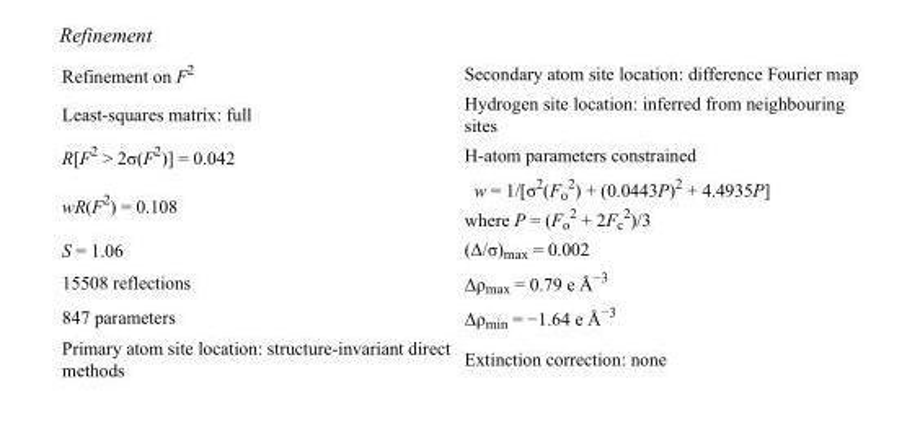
<table><tbody><tr><td>Refinement on F<sup>2</sup></td><td>Secondary atom site location: difference Fourier map</td></tr><tr><td>Least-squares matrix: full</td><td>Hydrogen site location: inferred from neighbouring sites</td></tr><tr><td>R[F<sup>2</sup> &gt; 2σ(F<sup>2</sup>)] = 0.042</td><td>H-atom parameters constrained</td></tr><tr><td>wR(F<sup>2</sup>) = 0.108</td><td>w = 1/[σ<sup>2</sup>(F<sub>o</sub> <sup>2</sup>) + (0.0443P)<sup>2</sup> + 4.4935P] where P = (F<sub>o</sub> <sup>2</sup> + 2F<sub>c</sub> <sup>2</sup>)/3</td></tr><tr><td>S = 1.06</td><td>(Δ/σ)<sub>max</sub> = 0.002</td></tr><tr><td>15508 reflections</td><td>Δρ<sub>max</sub> = 0.79 e Å<sup>−3</sup></td></tr><tr><td>847 parameters</td><td>Δρ<sub>min</sub> = −1.64 e Å<sup>−3</sup></td></tr><tr><td>Primary atom site location: structure-invariant direct methods</td><td>Extinction correction: none</td></tr></tbody></table>